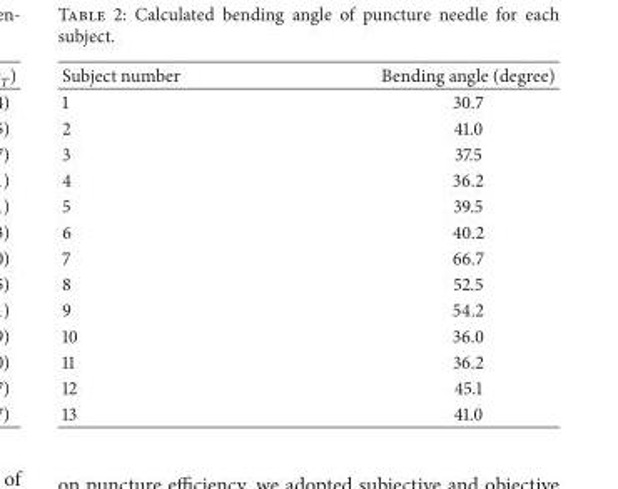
<table><thead><tr><td>Subject number</td><td>Bending angle (degree)</td></tr></thead><tbody><tr><td>1</td><td>30.7</td></tr><tr><td>2</td><td>41.0</td></tr><tr><td>3</td><td>37.5</td></tr><tr><td>4</td><td>36.2</td></tr><tr><td>5</td><td>39.5</td></tr><tr><td>6</td><td>40.2</td></tr><tr><td>7</td><td>66.7</td></tr><tr><td>8</td><td>52.5</td></tr><tr><td>9</td><td>54.2</td></tr><tr><td>10</td><td>36.0</td></tr><tr><td>11</td><td>36.2</td></tr><tr><td>12</td><td>45.1</td></tr><tr><td>13</td><td>41.0</td></tr></tbody></table>